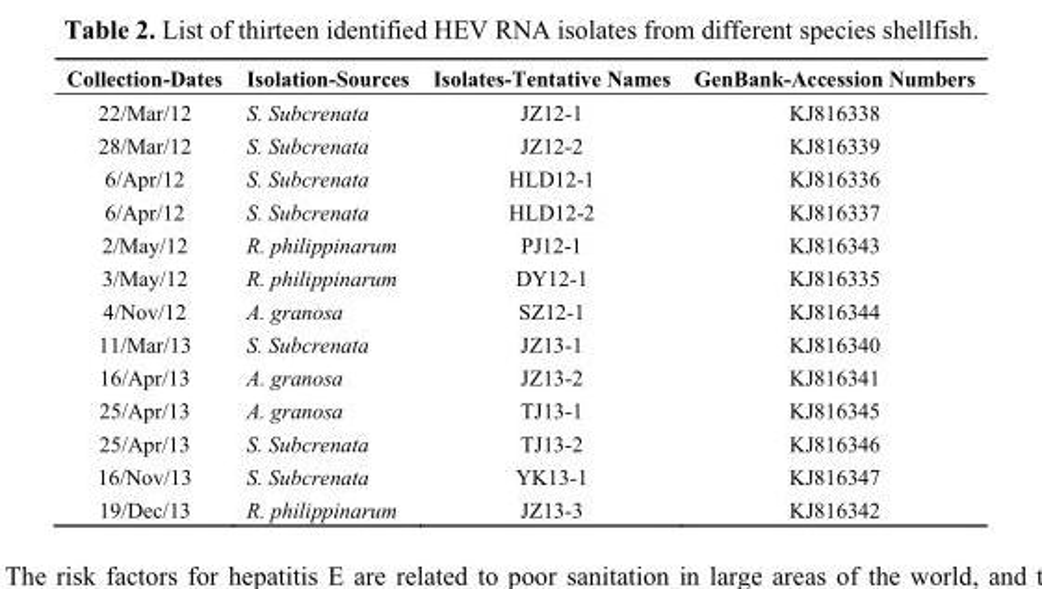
<table><thead><tr><td>Collection-Dates</td><td>Isolation-Sources</td><td>Isolates-Tentative Names</td><td>GenBank-Accession Numbers</td></tr></thead><tbody><tr><td>22/Mar/12</td><td>S. Subcrenata</td><td>JZ12-1</td><td>KJ816338</td></tr><tr><td>28/Mar/12</td><td>S. Subcrenata</td><td>JZ12-2</td><td>KJ816339</td></tr><tr><td>6/Apr/12</td><td>S. Subcrenata</td><td>HLD12-1</td><td>KJ816336</td></tr><tr><td>6/Apr/12</td><td>S. Subcrenata</td><td>HLD12-2</td><td>KJ816337</td></tr><tr><td>2/May/12</td><td>R. philippinarum</td><td>PJ12-1</td><td>KJ816343</td></tr><tr><td>3/May/12</td><td>R. philippinarum</td><td>DY12-1</td><td>KJ816335</td></tr><tr><td>4/Nov/12</td><td>A. granosa</td><td>SZ12-1</td><td>KJ816344</td></tr><tr><td>11/Mar/13</td><td>S. Subcrenata</td><td>JZ13-1</td><td>KJ816340</td></tr><tr><td>16/Apr/13</td><td>A. granosa</td><td>JZ13-2</td><td>KJ816341</td></tr><tr><td>25/Apr/13</td><td>A. granosa</td><td>TJ13-1</td><td>KJ816345</td></tr><tr><td>25/Apr/13</td><td>S. Subcrenata</td><td>TJ13-2</td><td>KJ816346</td></tr><tr><td>16/Nov/13</td><td>S. Subcrenata</td><td>YK13-1</td><td>KJ816347</td></tr><tr><td>19/Dec/13</td><td>R. philippinarum</td><td>JZ13-3</td><td>KJ816342</td></tr></tbody></table>